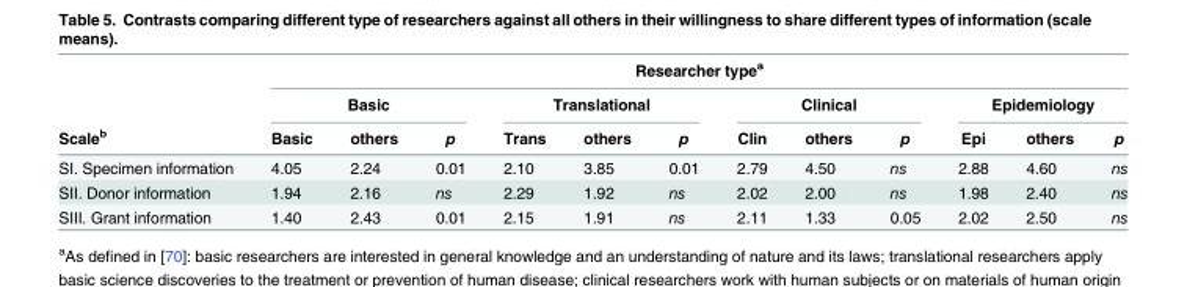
<table><thead><tr><td rowspan="3">Scale<sup>b</sup></td><td colspan="12">Researcher type<sup>a</sup></td></tr><tr><td colspan="3">Basic</td><td colspan="3">Translational</td><td colspan="3">Clinical</td><td colspan="3">Epidemiology</td></tr><tr><td>Basic</td><td>others</td><td>p</td><td>Trans</td><td>others</td><td>p</td><td>Clin</td><td>others</td><td>p</td><td>Epi</td><td>others</td><td>p</td></tr></thead><tbody><tr><td>SI. Specimen information</td><td>4.05</td><td>2.24</td><td>0.01</td><td>2.10</td><td>3.85</td><td>0.01</td><td>2.79</td><td>4.50</td><td>ns</td><td>2.88</td><td>4.60</td><td>ns</td></tr><tr><td>SII. Donor information</td><td>1.94</td><td>2.16</td><td>ns</td><td>2.29</td><td>1.92</td><td>ns</td><td>2.02</td><td>2.00</td><td>ns</td><td>1.98</td><td>2.40</td><td>ns</td></tr><tr><td>SIII. Grant information</td><td>1.40</td><td>2.43</td><td>0.01</td><td>2.15</td><td>1.91</td><td>ns</td><td>2.11</td><td>1.33</td><td>0.05</td><td>2.02</td><td>2.50</td><td>ns</td></tr></tbody></table>